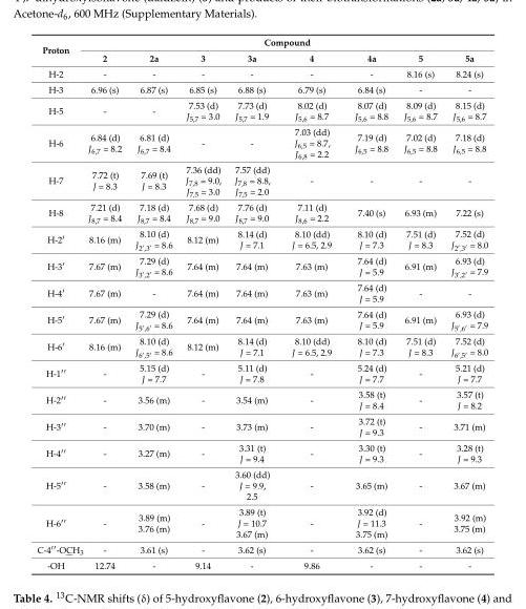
<table><thead><tr><td rowspan="2">Proton</td><td colspan="8">Compound</td></tr><tr><td>2</td><td>2a</td><td>3</td><td>3a</td><td>4</td><td>4a</td><td>5</td><td>5a</td></tr></thead><tbody><tr><td>H-2</td><td>-</td><td>-</td><td>-</td><td>-</td><td>-</td><td>-</td><td>8.16 (s)</td><td>8.24 (s)</td></tr><tr><td>H-3</td><td>6.96 (s)</td><td>6.87 (s)</td><td>6.85 (s)</td><td>6.88 (s)</td><td>6.79 (s)</td><td>6.84 (s)</td><td>-</td><td>-</td></tr><tr><td>H-5</td><td>-</td><td>-</td><td>7.53 (d) J5,7 = 3.0</td><td>7.73 (d) J5,7 = 1.9</td><td>8.02 (d) J5,6 = 8.7</td><td>8.07 (d) J5,6 = 8.8</td><td>8.09 (d) J5,6 = 8.7</td><td>8.15 (d) J5,6 = 8.7</td></tr><tr><td>H-6</td><td>6.84 (d) J6,7 = 8.2</td><td>6.81 (d) J6,7 = 8.4</td><td>-</td><td>-</td><td>7.03 (dd) J6,5 = 8.7, J6,8 = 2.2</td><td>7.19 (d) J6,5 = 8.8</td><td>7.02 (d) J6,5 = 8.8</td><td>7.18 (d) J6,5 = 8.8</td></tr><tr><td>H-7</td><td>7.72 (t) J = 8.3</td><td>7.69 (t) J = 8.3</td><td>7.36 (dd) J7,8 = 9.0, J7,5 = 3.0</td><td>7.57 (dd) J7,8 = 8.8, J7,5 = 2.0</td><td>-</td><td>-</td><td>-</td><td>-</td></tr><tr><td>H-8</td><td>7.21 (d) J8,7 = 8.4</td><td>7.18 (d) J8,7 = 8.4</td><td>7.68 (d) J8,7 = 9.0</td><td>7.76 (d) J8,7 = 9.0</td><td>7.11 (d) J8,6 = 2.2</td><td>7.40 (s)</td><td>6.93 (m)</td><td>7.22 (s)</td></tr><tr><td>H-2′</td><td>8.16 (m)</td><td>8.10 (d) J2′,3′ = 8.6</td><td>8.12 (m)</td><td>8.14 (d) J = 7.1</td><td>8.10 (dd) J = 6.5, 2.9</td><td>8.10 (d) J = 7.3</td><td>7.51 (d) J = 8.3</td><td>7.52 (d) J2′,3′ = 8.0</td></tr><tr><td>H-3′</td><td>7.67 (m)</td><td>7.29 (d) J3′,2′ = 8.6</td><td>7.64 (m)</td><td>7.64 (m)</td><td>7.63 (m)</td><td>7.64 (d) J = 5.9</td><td>6.91 (m)</td><td>6.93 (d) J3′,2′ = 7.9</td></tr><tr><td>H-4′</td><td>7.67 (m)</td><td>-</td><td>7.64 (m)</td><td>7.64 (m)</td><td>7.63 (m)</td><td>7.64 (d) J = 5.9</td><td>-</td><td>-</td></tr><tr><td>H-5′</td><td>7.67 (m)</td><td>7.29 (d) J5′,6′ = 8.6</td><td>7.64 (m)</td><td>7.64 (m)</td><td>7.63 (m)</td><td>7.64 (d) J = 5.9</td><td>6.91 (m)</td><td>6.93 (d) J5′,6′ = 7.9</td></tr><tr><td>H-6′</td><td>8.16 (m)</td><td>8.10 (d) J6′,5′ = 8.6</td><td>8.12 (m)</td><td>8.14 (d) J = 7.1</td><td>8.10 (dd) J = 6.5, 2.9</td><td>8.10 (d) J = 7.3</td><td>7.51 (d) J = 8.3</td><td>7.52 (d) J6′,5′ = 8.0</td></tr><tr><td>H-1′′</td><td>-</td><td>5.15 (d) J = 7.7</td><td>-</td><td>5.11 (d) J = 7.8</td><td>-</td><td>5.24 (d) J = 7.7</td><td>-</td><td>5.21 (d) J = 7.7</td></tr><tr><td>H-2′′</td><td>-</td><td>3.56 (m)</td><td>-</td><td>3.54 (m)</td><td>-</td><td>3.58 (t) J = 8.4</td><td>-</td><td>3.57 (t) J = 8.2</td></tr><tr><td>H-3′′</td><td>-</td><td>3.70 (m)</td><td>-</td><td>3.73 (m)</td><td>-</td><td>3.72 (t) J = 9.3</td><td>-</td><td>3.71 (m)</td></tr><tr><td>H-4′′</td><td>-</td><td>3.27 (m)</td><td>-</td><td>3.31 (t) J = 9.4</td><td>-</td><td>3.30 (t) J = 9.3</td><td>-</td><td>3.28 (t) J = 9.3</td></tr><tr><td>H-5′′</td><td>-</td><td>3.58 (m)</td><td>-</td><td>3.60 (dd) J = 9.9, 2.5</td><td>-</td><td>3.65 (m)</td><td>-</td><td>3.67 (m)</td></tr><tr><td>H-6′′</td><td>-</td><td>3.89 (m) 3.76 (m)</td><td>-</td><td>3.89 (t) J = 10.7 3.67 (m)</td><td>-</td><td>3.92 (d) J = 11.3 3.75 (m)</td><td>-</td><td>3.92 (m) 3.75 (m)</td></tr><tr><td>C-4′′-OCH3</td><td>-</td><td>3.61 (s)</td><td>-</td><td>3.62 (s)</td><td>-</td><td>3.62 (s)</td><td>-</td><td>3.62 (s)</td></tr><tr><td>-OH</td><td>12.74</td><td>-</td><td>9.14</td><td>-</td><td>9.86</td><td>-</td><td>-</td><td>-</td></tr></tbody></table>